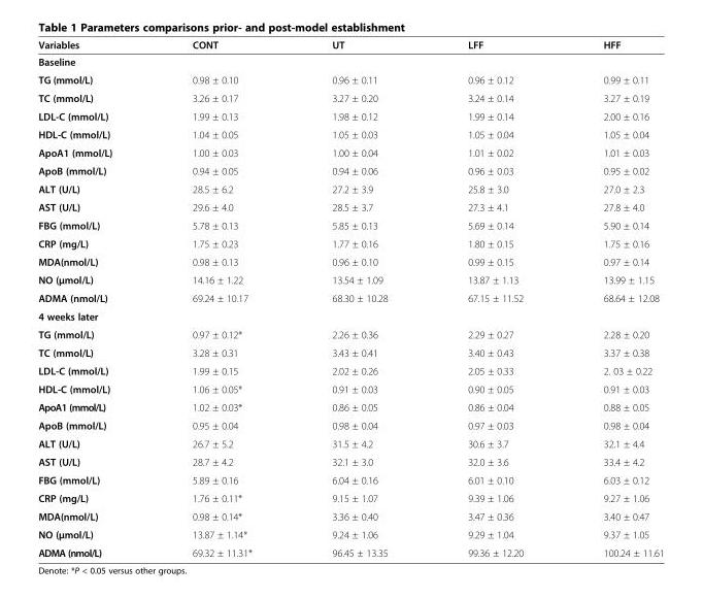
<table><thead><tr><td>Variables</td><td>CONT</td><td>UT</td><td>LFF</td><td>HFF</td></tr></thead><tbody><tr><td colspan="5">Baseline</td></tr><tr><td>TG (mmol/L)</td><td>0.98 ± 0.10</td><td>0.96 ± 0.11</td><td>0.96 ± 0.12</td><td>0.99 ± 0.11</td></tr><tr><td>TC (mmol/L)</td><td>3.26 ± 0.17</td><td>3.27 ± 0.20</td><td>3.24 ± 0.14</td><td>3.27 ± 0.19</td></tr><tr><td>LDL-C (mmol/L)</td><td>1.99 ± 0.13</td><td>1.98 ± 0.12</td><td>1.99 ± 0.14</td><td>2.00 ± 0.16</td></tr><tr><td>HDL-C (mmol/L)</td><td>1.04 ± 0.05</td><td>1.05 ± 0.03</td><td>1.05 ± 0.04</td><td>1.05 ± 0.04</td></tr><tr><td>ApoA1 (mmol/L)</td><td>1.00 ± 0.03</td><td>1.00 ± 0.04</td><td>1.01 ± 0.02</td><td>1.01 ± 0.03</td></tr><tr><td>ApoB (mmol/L)</td><td>0.94 ± 0.05</td><td>0.94 ± 0.06</td><td>0.96 ± 0.03</td><td>0.95 ± 0.02</td></tr><tr><td>ALT (U/L)</td><td>28.5 ± 6.2</td><td>27.2 ± 3.9</td><td>25.8 ± 3.0</td><td>27.0 ± 2.3</td></tr><tr><td>AST (U/L)</td><td>29.6 ± 4.0</td><td>28.5 ± 3.7</td><td>27.3 ± 4.1</td><td>27.8 ± 4.0</td></tr><tr><td>FBG (mmol/L)</td><td>5.78 ± 0.13</td><td>5.85 ± 0.13</td><td>5.69 ± 0.14</td><td>5.90 ± 0.14</td></tr><tr><td>CRP (mg/L)</td><td>1.75 ± 0.23</td><td>1.77 ± 0.16</td><td>1.80 ± 0.15</td><td>1.75 ± 0.16</td></tr><tr><td>MDA(nmol/L)</td><td>0.98 ± 0.13</td><td>0.96 ± 0.10</td><td>0.99 ± 0.15</td><td>0.97 ± 0.14</td></tr><tr><td>NO (μmol/L)</td><td>14.16 ± 1.22</td><td>13.54 ± 1.09</td><td>13.87 ± 1.13</td><td>13.99 ± 1.15</td></tr><tr><td>ADMA (nmol/L)</td><td>69.24 ± 10.17</td><td>68.30 ± 10.28</td><td>67.15 ± 11.52</td><td>68.64 ± 12.08</td></tr><tr><td colspan="5">4 weeks later</td></tr><tr><td>TG (mmol/L)</td><td>0.97 ± 0.12*</td><td>2.26 ± 0.36</td><td>2.29 ± 0.27</td><td>2.28 ± 0.20</td></tr><tr><td>TC (mmol/L)</td><td>3.28 ± 0.31</td><td>3.43 ± 0.41</td><td>3.40 ± 0.43</td><td>3.37 ± 0.38</td></tr><tr><td>LDL-C (mmol/L)</td><td>1.99 ± 0.15</td><td>2.02 ± 0.26</td><td>2.05 ± 0.33</td><td>2. 03 ± 0.22</td></tr><tr><td>HDL-C (mmol/L)</td><td>1.06 ± 0.05*</td><td>0.91 ± 0.03</td><td>0.90 ± 0.05</td><td>0.91 ± 0.03</td></tr><tr><td>ApoA1 (mmol/L)</td><td>1.02 ± 0.03*</td><td>0.86 ± 0.05</td><td>0.86 ± 0.04</td><td>0.88 ± 0.05</td></tr><tr><td>ApoB (mmol/L)</td><td>0.95 ± 0.04</td><td>0.98 ± 0.04</td><td>0.97 ± 0.03</td><td>0.98 ± 0.04</td></tr><tr><td>ALT (U/L)</td><td>26.7 ± 5.2</td><td>31.5 ± 4.2</td><td>30.6 ± 3.7</td><td>32.1 ± 4.4</td></tr><tr><td>AST (U/L)</td><td>28.7 ± 4.2</td><td>32.1 ± 3.0</td><td>32.0 ± 3.6</td><td>33.4 ± 4.2</td></tr><tr><td>FBG (mmol/L)</td><td>5.89 ± 0.16</td><td>6.04 ± 0.16</td><td>6.01 ± 0.10</td><td>6.03 ± 0.12</td></tr><tr><td>CRP (mg/L)</td><td>1.76 ± 0.11*</td><td>9.15 ± 1.07</td><td>9.39 ± 1.06</td><td>9.27 ± 1.06</td></tr><tr><td>MDA(nmol/L)</td><td>0.98 ± 0.14*</td><td>3.36 ± 0.40</td><td>3.47 ± 0.36</td><td>3.40 ± 0.47</td></tr><tr><td>NO (μmol/L)</td><td>13.87 ± 1.14*</td><td>9.24 ± 1.06</td><td>9.29 ± 1.04</td><td>9.37 ± 1.05</td></tr><tr><td>ADMA (nmol/L)</td><td>69.32 ± 11.31*</td><td>96.45 ± 13.35</td><td>99.36 ± 12.20</td><td>100.24 ± 11.61</td></tr></tbody></table>